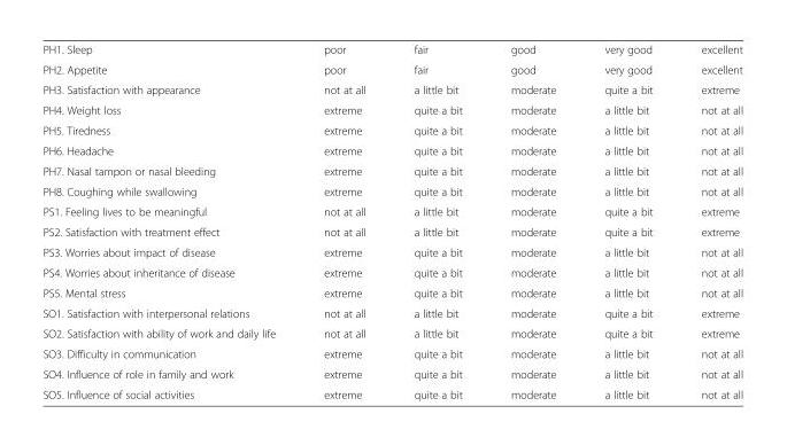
<table><tbody><tr><td>PH1. Sleep</td><td>poor</td><td>fair</td><td>good</td><td>very good</td><td>excellent</td></tr><tr><td>PH2. Appetite</td><td>poor</td><td>fair</td><td>good</td><td>very good</td><td>excellent</td></tr><tr><td>PH3. Satisfaction with appearance</td><td>not at all</td><td>a little bit</td><td>moderate</td><td>quite a bit</td><td>extreme</td></tr><tr><td>PH4. Weight loss</td><td>extreme</td><td>quite a bit</td><td>moderate</td><td>a little bit</td><td>not at all</td></tr><tr><td>PH5. Tiredness</td><td>extreme</td><td>quite a bit</td><td>moderate</td><td>a little bit</td><td>not at all</td></tr><tr><td>PH6. Headache</td><td>extreme</td><td>quite a bit</td><td>moderate</td><td>a little bit</td><td>not at all</td></tr><tr><td>PH7. Nasal tampon or nasal bleeding</td><td>extreme</td><td>quite a bit</td><td>moderate</td><td>a little bit</td><td>not at all</td></tr><tr><td>PH8. Coughing while swallowing</td><td>extreme</td><td>quite a bit</td><td>moderate</td><td>a little bit</td><td>not at all</td></tr><tr><td>PS1. Feeling lives to be meaningful</td><td>not at all</td><td>a little bit</td><td>moderate</td><td>quite a bit</td><td>extreme</td></tr><tr><td>PS2. Satisfaction with treatment effect</td><td>not at all</td><td>a little bit</td><td>moderate</td><td>quite a bit</td><td>extreme</td></tr><tr><td>PS3. Worries about impact of disease</td><td>extreme</td><td>quite a bit</td><td>moderate</td><td>a little bit</td><td>not at all</td></tr><tr><td>PS4. Worries about inheritance of disease</td><td>extreme</td><td>quite a bit</td><td>moderate</td><td>a little bit</td><td>not at all</td></tr><tr><td>PS5. Mental stress</td><td>extreme</td><td>quite a bit</td><td>moderate</td><td>a little bit</td><td>not at all</td></tr><tr><td>SO1. Satisfaction with interpersonal relations</td><td>not at all</td><td>a little bit</td><td>moderate</td><td>quite a bit</td><td>extreme</td></tr><tr><td>SO2. Satisfaction with ability of work and daily life</td><td>not at all</td><td>a little bit</td><td>moderate</td><td>quite a bit</td><td>extreme</td></tr><tr><td>SO3. Difficulty in communication</td><td>extreme</td><td>quite a bit</td><td>moderate</td><td>a little bit</td><td>not at all</td></tr><tr><td>SO4. Influence of role in family and work</td><td>extreme</td><td>quite a bit</td><td>moderate</td><td>a little bit</td><td>not at all</td></tr><tr><td>SO5. Influence of social activities</td><td>extreme</td><td>quite a bit</td><td>moderate</td><td>a little bit</td><td>not at all</td></tr></tbody></table>